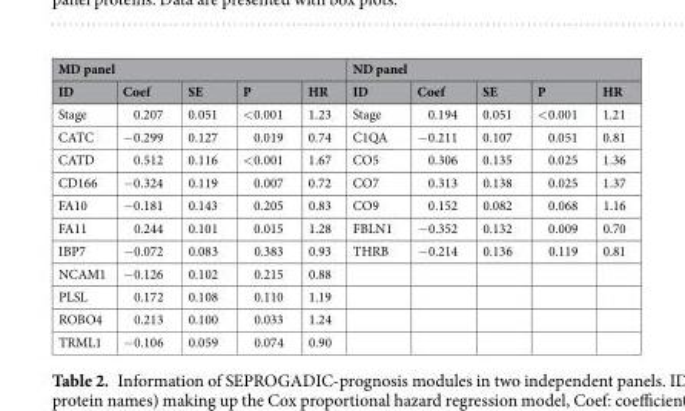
<table><thead><tr><td colspan="5">MD panel</td><td colspan="5">ND panel</td></tr><tr><td>ID</td><td>Coef</td><td>SE</td><td>P</td><td>HR</td><td>ID</td><td>Coef</td><td>SE</td><td>P</td><td>HR</td></tr></thead><tbody><tr><td>Stage</td><td>0.207</td><td>0.051</td><td>&lt;0.001</td><td>1.23</td><td>Stage</td><td>0.194</td><td>0.051</td><td>&lt;0.001</td><td>1.21</td></tr><tr><td>CATC</td><td>−0.299</td><td>0.127</td><td>0.019</td><td>0.74</td><td>C1QA</td><td>−0.211</td><td>0.107</td><td>0.051</td><td>0.81</td></tr><tr><td>CATD</td><td>0.512</td><td>0.116</td><td>&lt;0.001</td><td>1.67</td><td>CO5</td><td>0.306</td><td>0.135</td><td>0.025</td><td>1.36</td></tr><tr><td>CD166</td><td>−0.324</td><td>0.119</td><td>0.007</td><td>0.72</td><td>CO7</td><td>0.313</td><td>0.138</td><td>0.025</td><td>1.37</td></tr><tr><td>FA10</td><td>−0.181</td><td>0.143</td><td>0.205</td><td>0.83</td><td>CO9</td><td>0.152</td><td>0.082</td><td>0.068</td><td>1.16</td></tr><tr><td>FA11</td><td>0.244</td><td>0.101</td><td>0.015</td><td>1.28</td><td>FBLN1</td><td>−0.352</td><td>0.132</td><td>0.009</td><td>0.70</td></tr><tr><td>IBP7</td><td>−0.072</td><td>0.083</td><td>0.383</td><td>0.93</td><td>THRB</td><td>−0.214</td><td>0.136</td><td>0.119</td><td>0.81</td></tr><tr><td>NCAM1</td><td>−0.126</td><td>0.102</td><td>0.215</td><td>0.88</td><td></td><td></td><td></td><td></td><td></td></tr><tr><td>PLSL</td><td>0.172</td><td>0.108</td><td>0.110</td><td>1.19</td><td></td><td></td><td></td><td></td><td></td></tr><tr><td>ROBO4</td><td>0.213</td><td>0.100</td><td>0.033</td><td>1.24</td><td></td><td></td><td></td><td></td><td></td></tr><tr><td>TRML1</td><td>−0.106</td><td>0.059</td><td>0.074</td><td>0.90</td><td></td><td></td><td></td><td></td><td></td></tr></tbody></table>